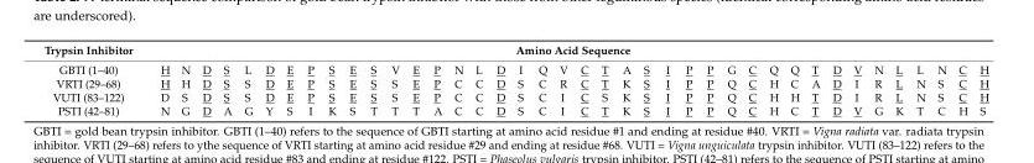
<table><thead><tr><td rowspan="2">Trypsin Inhibitor GBTI (1–40)</td><td colspan="40">Amino Acid Sequence</td></tr><tr><td>H</td><td>N</td><td>D</td><td>S</td><td>L</td><td>D</td><td>E</td><td>P</td><td>S</td><td>E</td><td>S</td><td>V</td><td>E</td><td>P</td><td>N</td><td>L</td><td>D</td><td>I</td><td>Q</td><td>V</td><td>C</td><td>T</td><td>A</td><td>S</td><td>I</td><td>P</td><td>P</td><td>G</td><td>C</td><td>Q</td><td>Q</td><td>T</td><td>D</td><td>V</td><td>N</td><td>L</td><td>L</td><td>N</td><td>C</td><td>H</td></tr></thead><tbody><tr><td>VRTI (29–68)</td><td>H</td><td>H</td><td>D</td><td>S</td><td>S</td><td>D</td><td>E</td><td>P</td><td>S</td><td>E</td><td>S</td><td>S</td><td>E</td><td>P</td><td>C</td><td>C</td><td>D</td><td>S</td><td>C</td><td>R</td><td>C</td><td>T</td><td>K</td><td>S</td><td>I</td><td>P</td><td>P</td><td>Q</td><td>C</td><td>H</td><td>C</td><td>A</td><td>D</td><td>I</td><td>R</td><td>L</td><td>N</td><td>S</td><td>C</td><td>H</td></tr><tr><td>VUTI (83–122)</td><td>D</td><td>S</td><td>D</td><td>S</td><td>S</td><td>D</td><td>E</td><td>P</td><td>S</td><td>E</td><td>S</td><td>S</td><td>E</td><td>P</td><td>C</td><td>C</td><td>D</td><td>S</td><td>C</td><td>I</td><td>C</td><td>S</td><td>K</td><td>S</td><td>I</td><td>P</td><td>P</td><td>Q</td><td>C</td><td>H</td><td>H</td><td>T</td><td>D</td><td>I</td><td>R</td><td>L</td><td>N</td><td>S</td><td>C</td><td>H</td></tr><tr><td>PSTI (42–81)</td><td>N</td><td>G</td><td>D</td><td>A</td><td>G</td><td>Y</td><td>S</td><td>I</td><td>K</td><td>S</td><td>T</td><td>T</td><td>T</td><td>A</td><td>C</td><td>C</td><td>D</td><td>S</td><td>C</td><td>I</td><td>C</td><td>T</td><td>K</td><td>S</td><td>I</td><td>P</td><td>P</td><td>Q</td><td>C</td><td>H</td><td>C</td><td>T</td><td>D</td><td>V</td><td>G</td><td>K</td><td>T</td><td>C</td><td>H</td><td>S</td></tr></tbody></table>